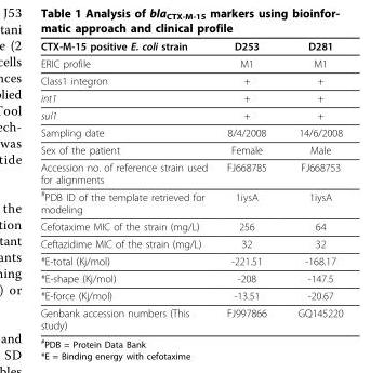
<table><thead><tr><td>CTX-M-15 positive E. coli strain</td><td>D253</td><td>D281</td></tr></thead><tbody><tr><td>ERIC profile</td><td>M1</td><td>M1</td></tr><tr><td>Class1 integron</td><td>+</td><td>+</td></tr><tr><td>int1</td><td>+</td><td>+</td></tr><tr><td>sul1</td><td>+</td><td>+</td></tr><tr><td>Sampling date</td><td>8/4/2008</td><td>14/6/2008</td></tr><tr><td>Sex of the patient</td><td>Female</td><td>Male</td></tr><tr><td>Accession no. of reference strain used for alignments</td><td>FJ668785</td><td>FJ668753</td></tr><tr><td><sup>#</sup>PDB ID of the template retrieved for modeling</td><td>1iysA</td><td>1iysA</td></tr><tr><td>Cefotaxime MIC of the strain (mg/L)</td><td>256</td><td>64</td></tr><tr><td>Ceftazidime MIC of the strain (mg/L)</td><td>32</td><td>32</td></tr><tr><td>*E-total (Kj/mol)</td><td>-221.51</td><td>-168.17</td></tr><tr><td>*E-shape (Kj/mol)</td><td>-208</td><td>-147.5</td></tr><tr><td>*E-force (Kj/mol)</td><td>-13.51</td><td>-20.67</td></tr><tr><td>Genbank accession numbers (This study)</td><td>FJ997866</td><td>GQ145220</td></tr></tbody></table>